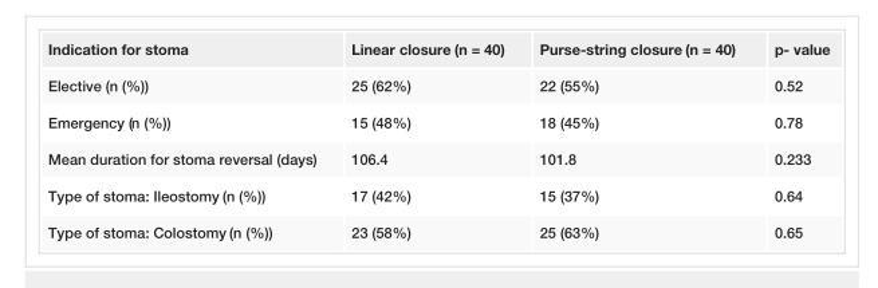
<table><tbody><tr><td>Indication for stoma</td><td>Linear closure (n = 40)</td><td>Purse-string closure (n = 40)</td><td>p- value</td></tr><tr><td>Elective (n (%))</td><td>25 (62%)</td><td>22 (55%)</td><td>0.52</td></tr><tr><td>Emergency (n (%))</td><td>15 (48%)</td><td>18 (45%)</td><td>0.78</td></tr><tr><td>Mean duration for stoma reversal (days)</td><td>106.4</td><td>101.8</td><td>0.233</td></tr><tr><td>Type of stoma: Ileostomy (n (%))</td><td>17 (42%)</td><td>15 (37%)</td><td>0.64</td></tr><tr><td>Type of stoma: Colostomy (n (%))</td><td>23 (58%)</td><td>25 (63%)</td><td>0.65</td></tr></tbody></table>